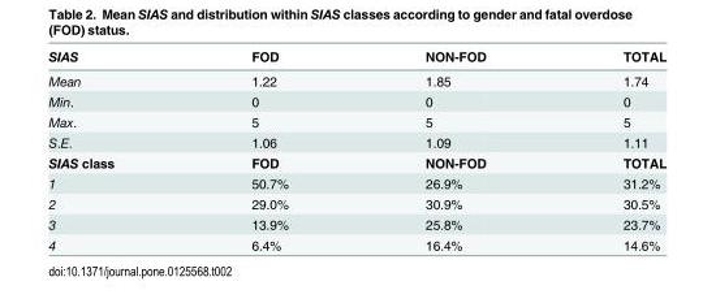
<table><thead><tr><td>SIAS</td><td>FOD</td><td>NON-FOD</td><td>TOTAL</td></tr></thead><tbody><tr><td>Mean</td><td>1.22</td><td>1.85</td><td>1.74</td></tr><tr><td>Min.</td><td>0</td><td>0</td><td>0</td></tr><tr><td>Max.</td><td>5</td><td>5</td><td>5</td></tr><tr><td>S.E.</td><td>1.06</td><td>1.09</td><td>1.11</td></tr><tr><td>SIAS class</td><td>FOD</td><td>NON-FOD</td><td>TOTAL</td></tr><tr><td>1</td><td>50.7%</td><td>26.9%</td><td>31.2%</td></tr><tr><td>2</td><td>29.0%</td><td>30.9%</td><td>30.5%</td></tr><tr><td>3</td><td>13.9%</td><td>25.8%</td><td>23.7%</td></tr><tr><td>4</td><td>6.4%</td><td>16.4%</td><td>14.6%</td></tr></tbody></table>